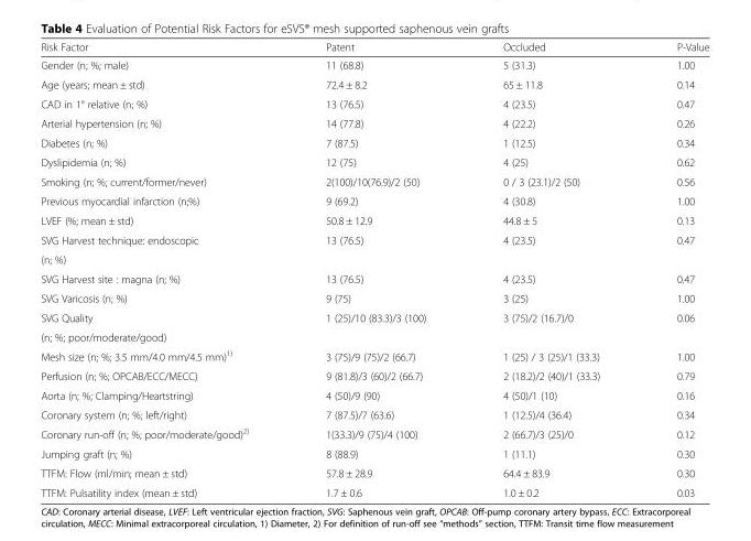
<table><thead><tr><td>Risk Factor</td><td>Patent</td><td>Occluded</td><td>P-Value</td></tr></thead><tbody><tr><td>Gender (n; %; male)</td><td>11 (68.8)</td><td>5 (31.3)</td><td>1.00</td></tr><tr><td>Age (years; mean ± std)</td><td>72.4 ± 8.2</td><td>65 ± 11.8</td><td>0.14</td></tr><tr><td>CAD in 1° relative (n; %)</td><td>13 (76.5)</td><td>4 (23.5)</td><td>0.47</td></tr><tr><td>Arterial hypertension (n; %)</td><td>14 (77.8)</td><td>4 (22.2)</td><td>0.26</td></tr><tr><td>Diabetes (n; %)</td><td>7 (87.5)</td><td>1 (12.5)</td><td>0.34</td></tr><tr><td>Dyslipidemia (n; %)</td><td>12 (75)</td><td>4 (25)</td><td>0.62</td></tr><tr><td>Smoking (n; %; current/former/never)</td><td>2(100)/10(76.9)/2 (50)</td><td>0 / 3 (23.1)/2 (50)</td><td>0.56</td></tr><tr><td>Previous myocardial infarction (n;%)</td><td>9 (69.2)</td><td>4 (30.8)</td><td>1.00</td></tr><tr><td>LVEF (%; mean ± std)</td><td>50.8 ± 12.9</td><td>44.8 ± 5</td><td>0.13</td></tr><tr><td>SVG Harvest technique: endoscopic</td><td rowspan="2">13 (76.5)</td><td rowspan="2">4 (23.5)</td><td rowspan="2">0.47</td></tr><tr><td>(n; %)</td></tr><tr><td>SVG Harvest site : magna (n; %)</td><td>13 (76.5)</td><td>4 (23.5)</td><td>0.47</td></tr><tr><td>SVG Varicosis (n; %)</td><td>9 (75)</td><td>3 (25)</td><td>1.00</td></tr><tr><td>SVG Quality</td><td rowspan="2">1 (25)/10 (83.3)/3 (100)</td><td rowspan="2">3 (75)/2 (16.7)/0</td><td rowspan="2">0.06</td></tr><tr><td>(n; %; poor/moderate/good)</td></tr><tr><td>Mesh size (n; %; 3.5 mm/4.0 mm/4.5 mm)<sup>1)</sup></td><td>3 (75)/9 (75)/2 (66.7)</td><td>1 (25) / 3 (25)/1 (33.3)</td><td>1.00</td></tr><tr><td>Perfusion (n; %; OPCAB/ECC/MECC)</td><td>9 (81.8)/3 (60)/2 (66.7)</td><td>2 (18.2)/2 (40)/1 (33.3)</td><td>0.79</td></tr><tr><td>Aorta (n; %; Clamping/Heartstring)</td><td>4 (50)/9 (90)</td><td>4 (50)/1 (10)</td><td>0.16</td></tr><tr><td>Coronary system (n; %; left/right)</td><td>7 (87.5)/7 (63.6)</td><td>1 (12.5)/4 (36.4)</td><td>0.34</td></tr><tr><td>Coronary run-off (n; %; poor/moderate/good)<sup>2)</sup></td><td>1(33.3)/9 (75)/4 (100)</td><td>2 (66.7)/3 (25)/0</td><td>0.12</td></tr><tr><td>Jumping graft (n; %)</td><td>8 (88.9)</td><td>1 (11.1)</td><td>0.30</td></tr><tr><td>TTFM: Flow (ml/min; mean ± std)</td><td>57.8 ± 28.9</td><td>64.4 ± 83.9</td><td>0.30</td></tr><tr><td>TTFM: Pulsatility index (mean ± std)</td><td>1.7 ± 0.6</td><td>1.0 ± 0.2</td><td>0.03</td></tr></tbody></table>